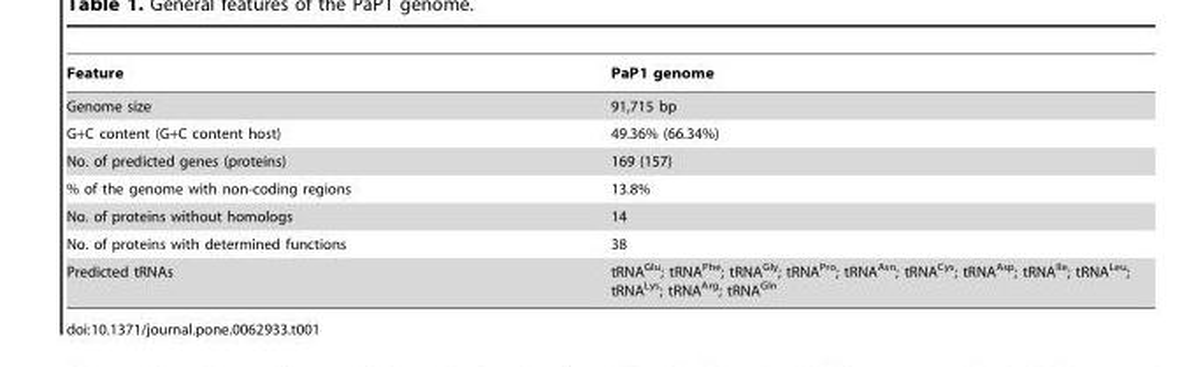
<table><thead><tr><td>Feature</td><td>PaP1 genome</td></tr></thead><tbody><tr><td>Genome size</td><td>91,715 bp</td></tr><tr><td>G+C content (G+C content host)</td><td>49.36% (66.34%)</td></tr><tr><td>No. of predicted genes (proteins)</td><td>169 (157)</td></tr><tr><td>% of the genome with non-coding regions</td><td>13.8%</td></tr><tr><td>No. of proteins without homologs</td><td>14</td></tr><tr><td>No. of proteins with determined functions</td><td>38</td></tr><tr><td>Predicted tRNAs</td><td>tRNA<sup>Glu</sup>; tRNA<sup>Phe</sup>; tRNA<sup>Gly</sup>; tRNA<sup>Pro</sup>; tRNA<sup>Asn</sup>; tRNA<sup>Cys</sup>; tRNA<sup>Asp</sup>; tRNA<sup>Ile</sup>; tRNA<sup>Leu</sup>; tRNA<sup>Lys</sup>; tRNA<sup>Arg</sup>; tRNA<sup>Gln</sup></td></tr></tbody></table>